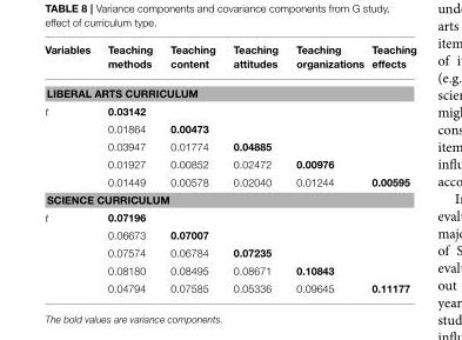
<table><thead><tr><td>Variables</td><td>Teaching methods</td><td>Teaching content</td><td>Teaching attitudes</td><td>Teaching organizations</td><td>Teaching effects</td></tr></thead><tbody><tr><td colspan="6">LIBERAL ARTS CURRICULUM</td></tr><tr><td rowspan="5">t</td><td>0.03142</td><td></td><td></td><td></td><td></td></tr><tr><td>0.01864</td><td>0.00473</td><td></td><td></td><td></td></tr><tr><td>0.03947</td><td>0.01774</td><td>0.04885</td><td></td><td></td></tr><tr><td>0.01927</td><td>0.00852</td><td>0.02472</td><td>0.00976</td><td></td></tr><tr><td>0.01449</td><td>0.00578</td><td>0.02040</td><td>0.01244</td><td>0.00595</td></tr><tr><td colspan="6">SCIENCE CURRICULUM</td></tr><tr><td rowspan="5">t</td><td>0.07196</td><td></td><td></td><td></td><td></td></tr><tr><td>0.06673</td><td>0.07007</td><td></td><td></td><td></td></tr><tr><td>0.07574</td><td>0.06784</td><td>0.07235</td><td></td><td></td></tr><tr><td>0.08180</td><td>0.08495</td><td>0.08671</td><td>0.10843</td><td></td></tr><tr><td>0.04794</td><td>0.07585</td><td>0.05336</td><td>0.09645</td><td>0.11177</td></tr></tbody></table>